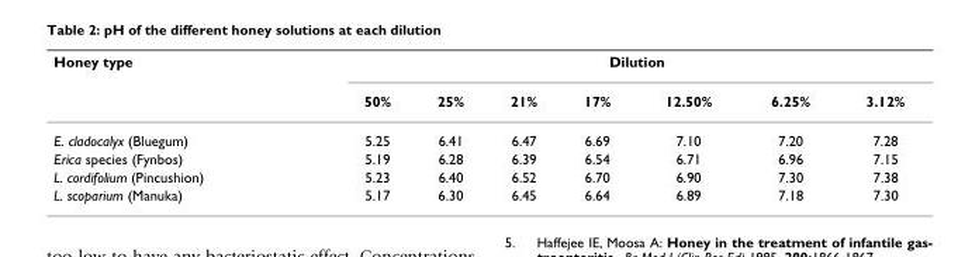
<table><thead><tr><td rowspan="2">Honey type</td><td colspan="7">Dilution</td></tr><tr><td>50%</td><td>25%</td><td>21%</td><td>17%</td><td>12.50%</td><td>6.25%</td><td>3.12%</td></tr></thead><tbody><tr><td>E. cladocalyx (Bluegum)</td><td>5.25</td><td>6.41</td><td>6.47</td><td>6.69</td><td>7.10</td><td>7.20</td><td>7.28</td></tr><tr><td>Erica species (Fynbos)</td><td>5.19</td><td>6.28</td><td>6.39</td><td>6.54</td><td>6.71</td><td>6.96</td><td>7.15</td></tr><tr><td>L. cordifolium (Pincushion)</td><td>5.23</td><td>6.40</td><td>6.52</td><td>6.70</td><td>6.90</td><td>7.30</td><td>7.38</td></tr><tr><td>L. scoparium (Manuka)</td><td>5.17</td><td>6.30</td><td>6.45</td><td>6.64</td><td>6.89</td><td>7.18</td><td>7.30</td></tr></tbody></table>